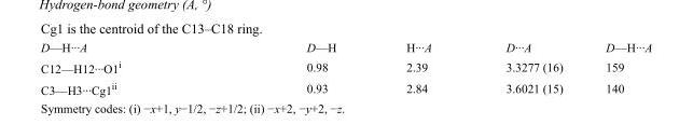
<table><tbody><tr><td>D—H···A</td><td>D—H</td><td>H···A</td><td>D···A</td><td>D—H···A</td></tr><tr><td>C12—H12···O1<sup>i</sup></td><td>0.98</td><td>2.39</td><td>3.3277 (16)</td><td>159</td></tr><tr><td>C3—H3···Cg1<sup>ii</sup></td><td>0.93</td><td>2.84</td><td>3.6021 (15)</td><td>140</td></tr></tbody></table>